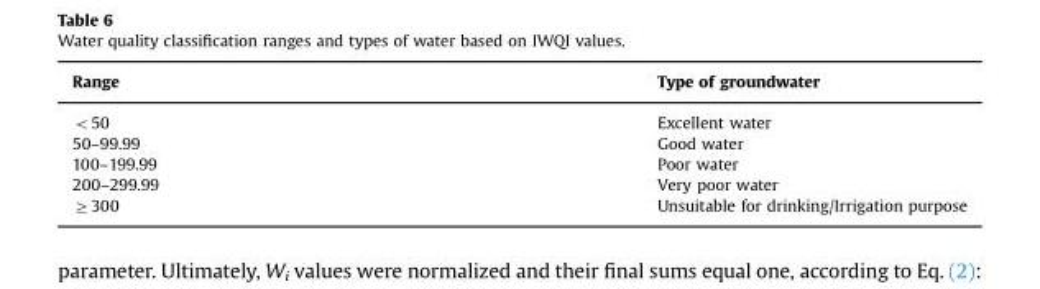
<table><thead><tr><td>Range</td><td>Type of groundwater</td></tr></thead><tbody><tr><td>&lt;50</td><td>Excellent water</td></tr><tr><td>50–99.99</td><td>Good water</td></tr><tr><td>100–199.99</td><td>Poor water</td></tr><tr><td>200–299.99</td><td>Very poor water</td></tr><tr><td>≥300</td><td>Unsuitable for drinking/Irrigation purpose</td></tr></tbody></table>